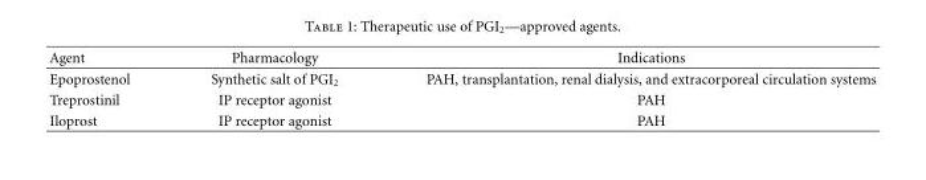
<table><thead><tr><td>Agent</td><td>Pharmacology</td><td>Indications</td></tr></thead><tbody><tr><td>Epoprostenol</td><td>Synthetic salt of PGI<sub>2</sub></td><td>PAH, transplantation, renal dialysis, and extracorporeal circulation systems</td></tr><tr><td>Treprostinil</td><td>IP receptor agonist</td><td>PAH</td></tr><tr><td>Iloprost</td><td>IP receptor agonist</td><td>PAH</td></tr></tbody></table>